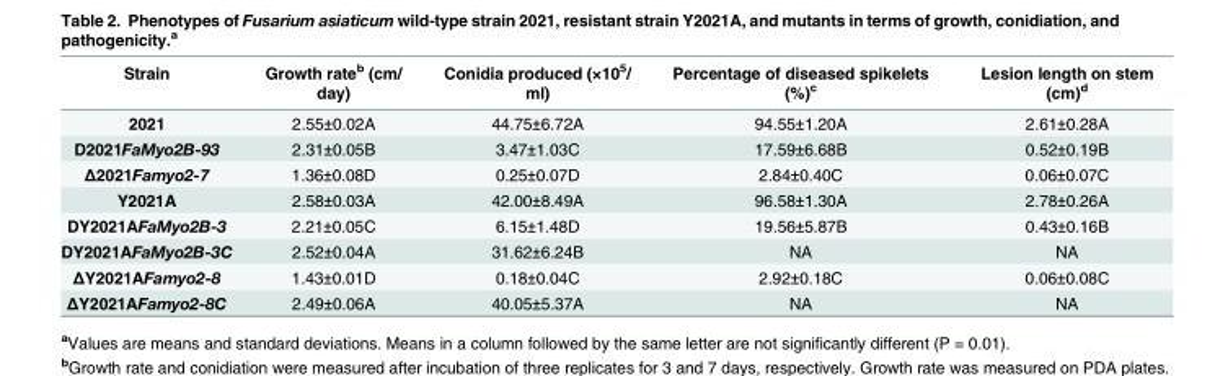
<table><thead><tr><td>Strain</td><td>Growth rate<sup>b</sup> (cm/ day)</td><td>Conidia produced (×10<sup>5</sup>/ ml)</td><td>Percentage of diseased spikelets (%)<sup>c</sup></td><td>Lesion length on stem (cm)<sup>d</sup></td></tr></thead><tbody><tr><td>2021</td><td>2.55±0.02A</td><td>44.75±6.72A</td><td>94.55±1.20A</td><td>2.61±0.28A</td></tr><tr><td>D2021FaMyo2B-93</td><td>2.31±0.05B</td><td>3.47±1.03C</td><td>17.59±6.68B</td><td>0.52±0.19B</td></tr><tr><td>Δ2021Famyo2-7</td><td>1.36±0.08D</td><td>0.25±0.07D</td><td>2.84±0.40C</td><td>0.06±0.07C</td></tr><tr><td>Y2021A</td><td>2.58±0.03A</td><td>42.00±8.49A</td><td>96.58±1.30A</td><td>2.78±0.26A</td></tr><tr><td>DY2021AFaMyo2B-3</td><td>2.21±0.05C</td><td>6.15±1.48D</td><td>19.56±5.87B</td><td>0.43±0.16B</td></tr><tr><td>DY2021AFaMyo2B-3C</td><td>2.52±0.04A</td><td>31.62±6.24B</td><td>NA</td><td>NA</td></tr><tr><td>ΔY2021AFamyo2-8</td><td>1.43±0.01D</td><td>0.18±0.04C</td><td>2.92±0.18C</td><td>0.06±0.08C</td></tr><tr><td>ΔY2021AFamyo2-8C</td><td>2.49±0.06A</td><td>40.05±5.37A</td><td>NA</td><td>NA</td></tr></tbody></table>